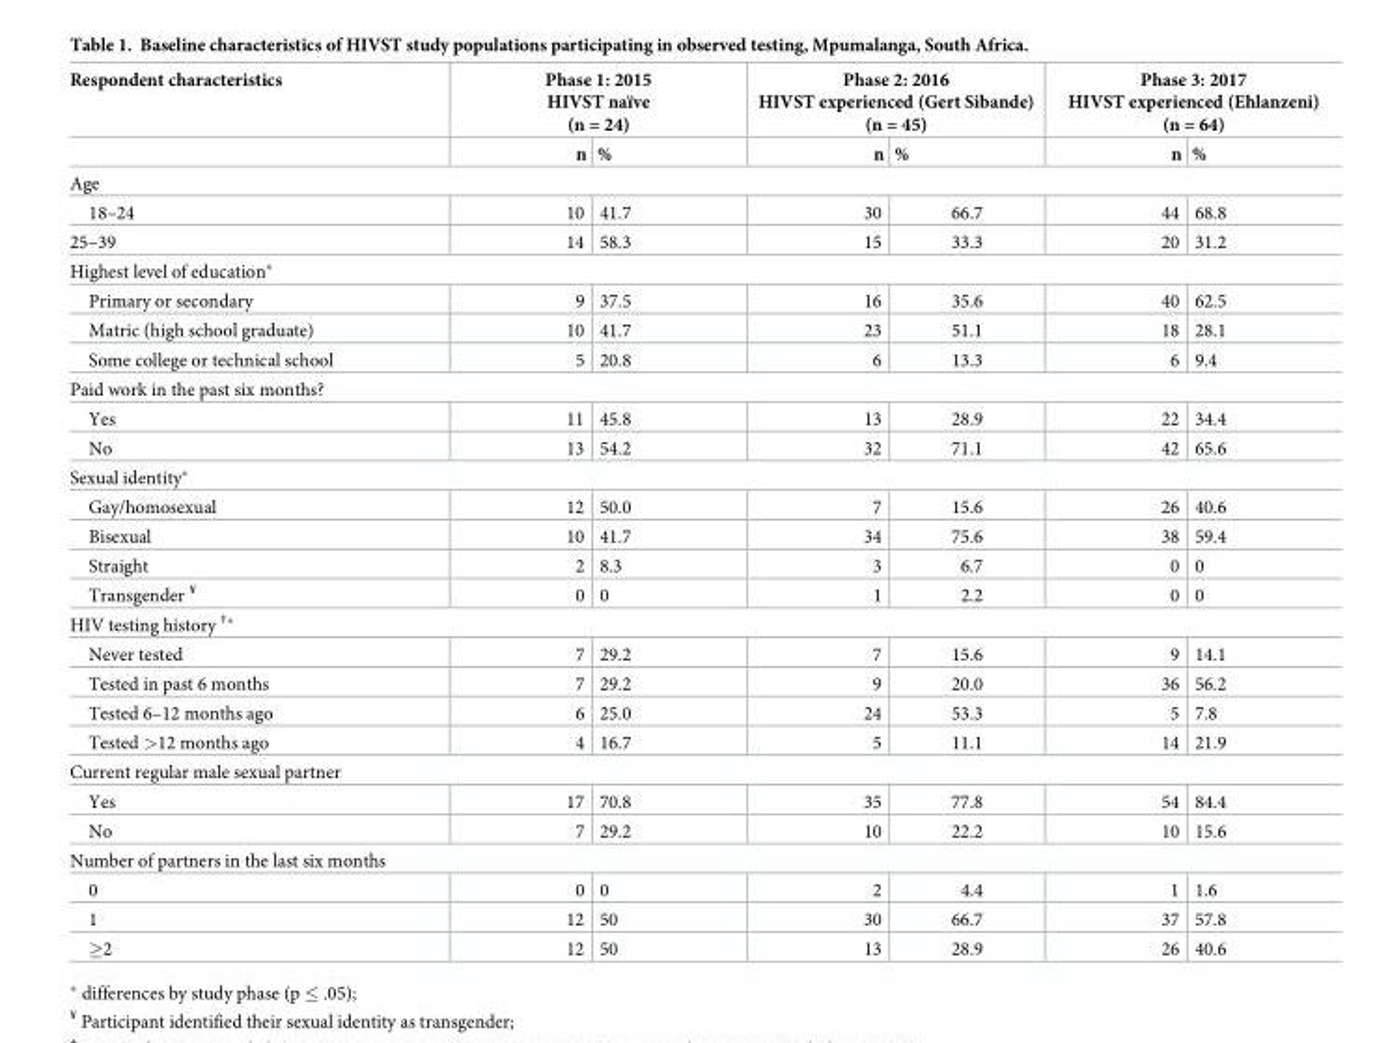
<table><thead><tr><td rowspan="2">Respondent characteristics</td><td colspan="2">Phase 1: 2015 HIVST naïve (n = 24)</td><td colspan="2">Phase 2: 2016 HIVST experienced (Gert Sibande) (n = 45)</td><td colspan="2">Phase 3: 2017 HIVST experienced (Ehlanzeni) (n = 64)</td></tr><tr><td>n</td><td>%</td><td>n</td><td>%</td><td>n</td><td>%</td></tr></thead><tbody><tr><td colspan="7">Age</td></tr><tr><td>18–24</td><td>10</td><td>41.7</td><td>30</td><td>66.7</td><td>44</td><td>68.8</td></tr><tr><td>25–39</td><td>14</td><td>58.3</td><td>15</td><td>33.3</td><td>20</td><td>31.2</td></tr><tr><td colspan="7">Highest level of education*</td></tr><tr><td>Primary or secondary</td><td>9</td><td>37.5</td><td>16</td><td>35.6</td><td>40</td><td>62.5</td></tr><tr><td>Matric (high school graduate)</td><td>10</td><td>41.7</td><td>23</td><td>51.1</td><td>18</td><td>28.1</td></tr><tr><td>Some college or technical school</td><td>5</td><td>20.8</td><td>6</td><td>13.3</td><td>6</td><td>9.4</td></tr><tr><td colspan="7">Paid work in the past six months?</td></tr><tr><td>Yes</td><td>11</td><td>45.8</td><td>13</td><td>28.9</td><td>22</td><td>34.4</td></tr><tr><td>No</td><td>13</td><td>54.2</td><td>32</td><td>71.1</td><td>42</td><td>65.6</td></tr><tr><td colspan="7">Sexual identity*</td></tr><tr><td>Gay/homosexual</td><td>12</td><td>50.0</td><td>7</td><td>15.6</td><td>26</td><td>40.6</td></tr><tr><td>Bisexual</td><td>10</td><td>41.7</td><td>34</td><td>75.6</td><td>38</td><td>59.4</td></tr><tr><td>Straight</td><td>2</td><td>8.3</td><td>3</td><td>6.7</td><td>0</td><td>0</td></tr><tr><td>Transgender <sup>¥</sup></td><td>0</td><td>0</td><td>1</td><td>2.2</td><td>0</td><td>0</td></tr><tr><td colspan="7">HIV testing history <sup>†</sup>*</td></tr><tr><td>Never tested</td><td>7</td><td>29.2</td><td>7</td><td>15.6</td><td>9</td><td>14.1</td></tr><tr><td>Tested in past 6 months</td><td>7</td><td>29.2</td><td>9</td><td>20.0</td><td>36</td><td>56.2</td></tr><tr><td>Tested 6–12 months ago</td><td>6</td><td>25.0</td><td>24</td><td>53.3</td><td>5</td><td>7.8</td></tr><tr><td>Tested &gt;12 months ago</td><td>4</td><td>16.7</td><td>5</td><td>11.1</td><td>14</td><td>21.9</td></tr><tr><td colspan="7">Current regular male sexual partner</td></tr><tr><td>Yes</td><td>17</td><td>70.8</td><td>35</td><td>77.8</td><td>54</td><td>84.4</td></tr><tr><td>No</td><td>7</td><td>29.2</td><td>10</td><td>22.2</td><td>10</td><td>15.6</td></tr><tr><td colspan="7">Number of partners in the last six months</td></tr><tr><td>0</td><td>0</td><td>0</td><td>2</td><td>4.4</td><td>1</td><td>1.6</td></tr><tr><td>1</td><td>12</td><td>50</td><td>30</td><td>66.7</td><td>37</td><td>57.8</td></tr><tr><td>≥2</td><td>12</td><td>50</td><td>13</td><td>28.9</td><td>26</td><td>40.6</td></tr></tbody></table>